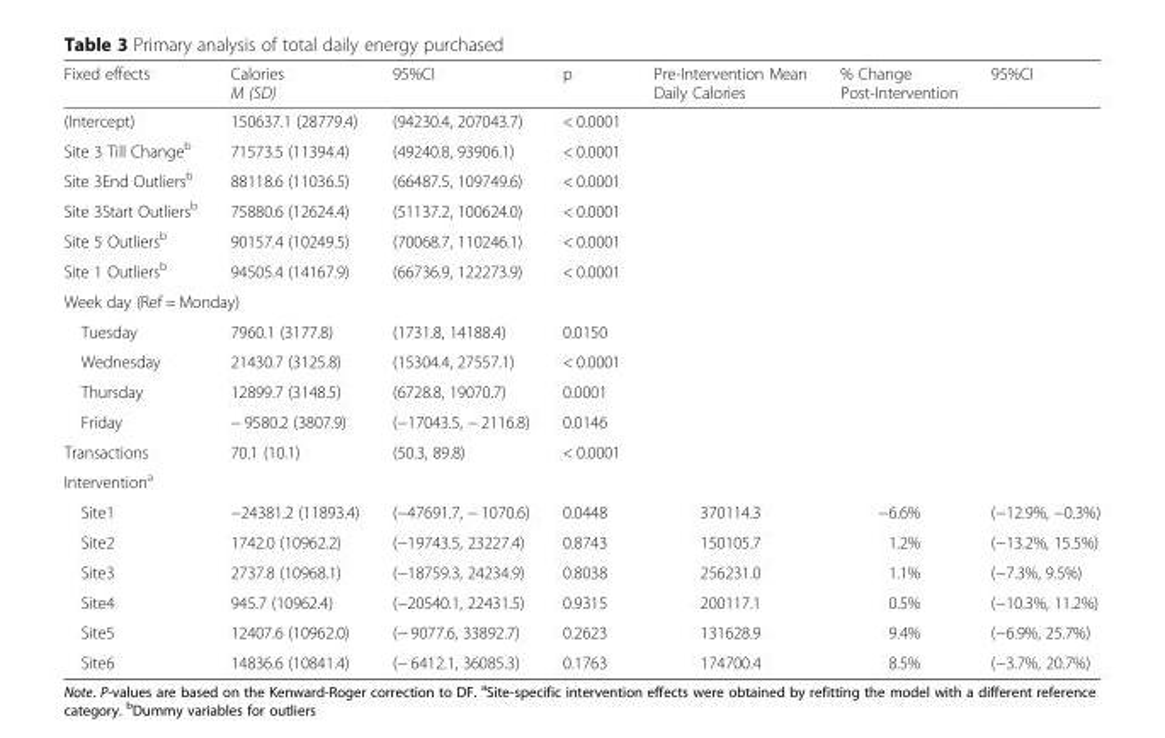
<table><thead><tr><td>Fixed effects</td><td>Calories M (SD)</td><td>95%CI</td><td>p</td><td>Pre-Intervention Mean Daily Calories</td><td>% Change Post-Intervention</td><td>95%CI</td></tr></thead><tbody><tr><td>(Intercept)</td><td>150637.1 (28779.4)</td><td>(94230.4, 207043.7)</td><td>&lt; 0.0001</td><td></td><td></td><td></td></tr><tr><td>Site 3 Till Change<sup>b</sup></td><td>71573.5 (11394.4)</td><td>(49240.8, 93906.1)</td><td>&lt; 0.0001</td><td></td><td></td><td></td></tr><tr><td>Site 3End Outliers<sup>b</sup></td><td>88118.6 (11036.5)</td><td>(66487.5, 109749.6)</td><td>&lt; 0.0001</td><td></td><td></td><td></td></tr><tr><td>Site 3Start Outliers<sup>b</sup></td><td>75880.6 (12624.4)</td><td>(51137.2, 100624.0)</td><td>&lt; 0.0001</td><td></td><td></td><td></td></tr><tr><td>Site 5 Outliers<sup>b</sup></td><td>90157.4 (10249.5)</td><td>(70068.7, 110246.1)</td><td>&lt; 0.0001</td><td></td><td></td><td></td></tr><tr><td>Site 1 Outliers<sup>b</sup></td><td>94505.4 (14167.9)</td><td>(66736.9, 122273.9)</td><td>&lt; 0.0001</td><td></td><td></td><td></td></tr><tr><td colspan="7">Week day (Ref = Monday)</td></tr><tr><td>Tuesday</td><td>7960.1 (3177.8)</td><td>(1731.8, 14188.4)</td><td>0.0150</td><td></td><td></td><td></td></tr><tr><td>Wednesday</td><td>21430.7 (3125.8)</td><td>(15304.4, 27557.1)</td><td>&lt; 0.0001</td><td></td><td></td><td></td></tr><tr><td>Thursday</td><td>12899.7 (3148.5)</td><td>(6728.8, 19070.7)</td><td>0.0001</td><td></td><td></td><td></td></tr><tr><td>Friday</td><td>− 9580.2 (3807.9)</td><td>(−17043.5, − 2116.8)</td><td>0.0146</td><td></td><td></td><td></td></tr><tr><td>Transactions</td><td>70.1 (10.1)</td><td>(50.3, 89.8)</td><td>&lt; 0.0001</td><td></td><td></td><td></td></tr><tr><td colspan="7">Intervention<sup>a</sup></td></tr><tr><td>Site1</td><td>−24381.2 (11893.4)</td><td>(−47691.7, − 1070.6)</td><td>0.0448</td><td>370114.3</td><td>−6.6%</td><td>(−12.9%, −0.3%)</td></tr><tr><td>Site2</td><td>1742.0 (10962.2)</td><td>(−19743.5, 23227.4)</td><td>0.8743</td><td>150105.7</td><td>1.2%</td><td>(−13.2%, 15.5%)</td></tr><tr><td>Site3</td><td>2737.8 (10968.1)</td><td>(−18759.3, 24234.9)</td><td>0.8038</td><td>256231.0</td><td>1.1%</td><td>(−7.3%, 9.5%)</td></tr><tr><td>Site4</td><td>945.7 (10962.4)</td><td>(−20540.1, 22431.5)</td><td>0.9315</td><td>200117.1</td><td>0.5%</td><td>(−10.3%, 11.2%)</td></tr><tr><td>Site5</td><td>12407.6 (10962.0)</td><td>(− 9077.6, 33892.7)</td><td>0.2623</td><td>131628.9</td><td>9.4%</td><td>(−6.9%, 25.7%)</td></tr><tr><td>Site6</td><td>14836.6 (10841.4)</td><td>(− 6412.1, 36085.3)</td><td>0.1763</td><td>174700.4</td><td>8.5%</td><td>(−3.7%, 20.7%)</td></tr></tbody></table>